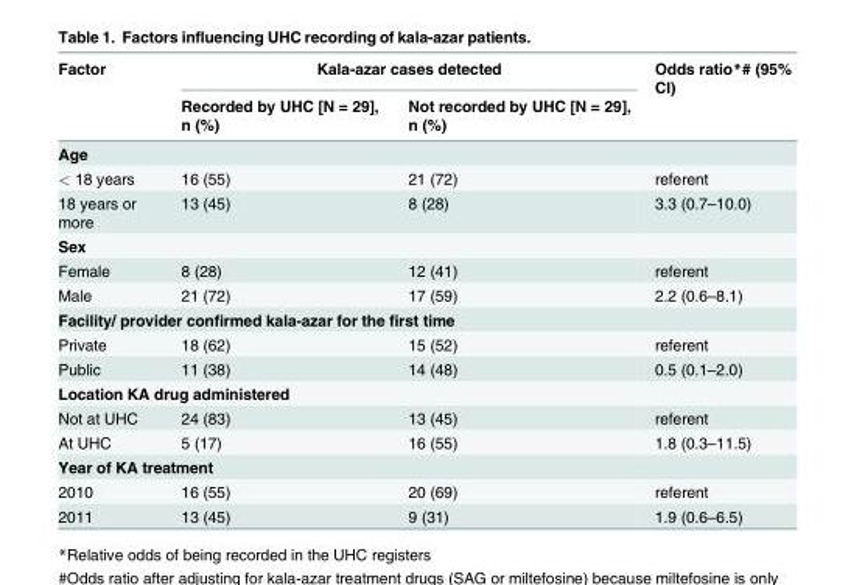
<table><thead><tr><td rowspan="2">Factor</td><td colspan="2">Kala-azar cases detected</td><td rowspan="2">Odds ratio*# (95% CI)</td></tr><tr><td>Recorded by UHC [N = 29], n (%)</td><td>Not recorded by UHC [N = 29], n (%)</td></tr></thead><tbody><tr><td colspan="4">Age</td></tr><tr><td>&lt; 18 years</td><td>16 (55)</td><td>21 (72)</td><td>referent</td></tr><tr><td>18 years or more</td><td>13 (45)</td><td>8 (28)</td><td>3.3 (0.7–10.0)</td></tr><tr><td colspan="4">Sex</td></tr><tr><td>Female</td><td>8 (28)</td><td>12 (41)</td><td>referent</td></tr><tr><td>Male</td><td>21 (72)</td><td>17 (59)</td><td>2.2 (0.6–8.1)</td></tr><tr><td colspan="4">Facility/ provider confirmed kala-azar for the first time</td></tr><tr><td>Private</td><td>18 (62)</td><td>15 (52)</td><td>referent</td></tr><tr><td>Public</td><td>11 (38)</td><td>14 (48)</td><td>0.5 (0.1–2.0)</td></tr><tr><td colspan="4">Location KA drug administered</td></tr><tr><td>Not at UHC</td><td>24 (83)</td><td>13 (45)</td><td>referent</td></tr><tr><td>At UHC</td><td>5 (17)</td><td>16 (55)</td><td>1.8 (0.3–11.5)</td></tr><tr><td colspan="4">Year of KA treatment</td></tr><tr><td>2010</td><td>16 (55)</td><td>20 (69)</td><td>referent</td></tr><tr><td>2011</td><td>13 (45)</td><td>9 (31)</td><td>1.9 (0.6–6.5)</td></tr></tbody></table>